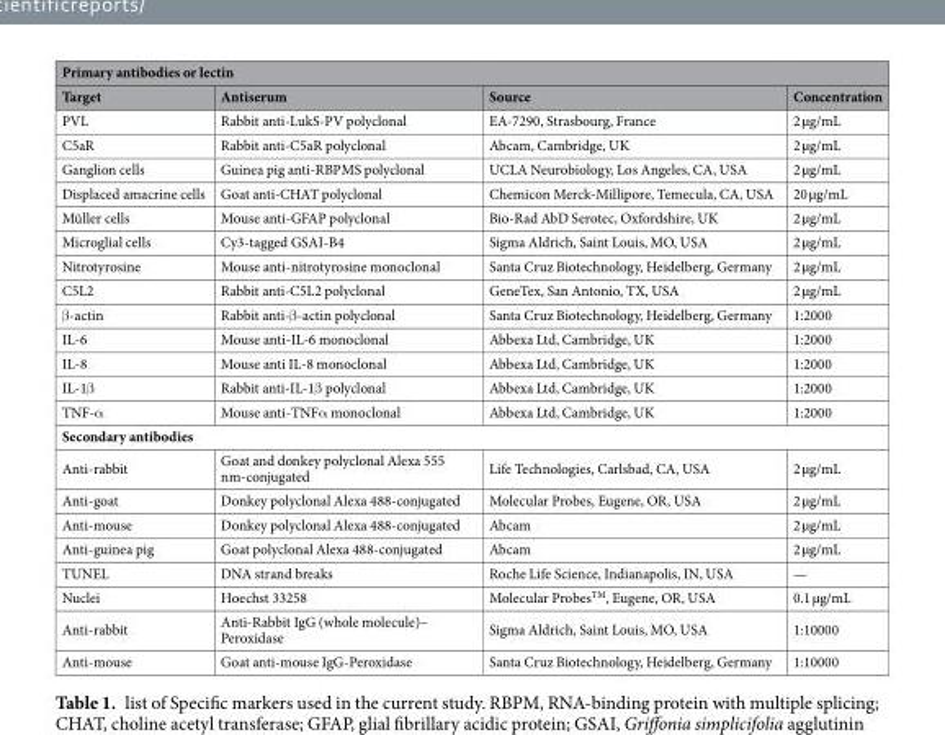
<table><thead><tr><td colspan="4">Primary antibodies or lectin</td></tr><tr><td>Target</td><td>Antiserum</td><td>Source</td><td>Concentration</td></tr></thead><tbody><tr><td>PVL</td><td>Rabbit anti-LukS-PV polyclonal</td><td>EA-7290, Strasbourg, France</td><td>2 µg/mL</td></tr><tr><td>C5aR</td><td>Rabbit anti-C5aR polyclonal</td><td>Abcam, Cambridge, UK</td><td>2 µg/mL</td></tr><tr><td>Ganglion cells</td><td>Guinea pig anti-RBPMS polyclonal</td><td>UCLA Neurobiology, Los Angeles, CA, USA</td><td>2 µg/mL</td></tr><tr><td>Displaced amacrine cells</td><td>Goat anti-CHAT polyclonal</td><td>Chemicon Merck-Millipore, Temecula, CA, USA</td><td>20 µg/mL</td></tr><tr><td>Müller cells</td><td>Mouse anti-GFAP polyclonal</td><td>Bio-Rad AbD Serotec, Oxfordshire, UK</td><td>2 µg/mL</td></tr><tr><td>Microglial cells</td><td>Cy3-tagged GSAI-B4</td><td>Sigma Aldrich, Saint Louis, MO, USA</td><td>2 µg/mL</td></tr><tr><td>Nitrotyrosine</td><td>Mouse anti-nitrotyrosine monoclonal</td><td>Santa Cruz Biotechnology, Heidelberg, Germany</td><td>2 µg/mL</td></tr><tr><td>C5L2</td><td>Rabbit anti-C5L2 polyclonal</td><td>GeneTex, San Antonio, TX, USA</td><td>2 µg/mL</td></tr><tr><td>β-actin</td><td>Rabbit anti-β-actin polyclonal</td><td>Santa Cruz Biotechnology, Heidelberg, Germany</td><td>1:2000</td></tr><tr><td>IL-6</td><td>Mouse anti-IL-6 monoclonal</td><td>Abbexa Ltd, Cambridge, UK</td><td>1:2000</td></tr><tr><td>IL-8</td><td>Mouse anti IL-8 monoclonal</td><td>Abbexa Ltd, Cambridge, UK</td><td>1:2000</td></tr><tr><td>IL-1β</td><td>Rabbit anti-IL-1β polyclonal</td><td>Abbexa Ltd, Cambridge, UK</td><td>1:2000</td></tr><tr><td>TNF-α</td><td>Mouse anti-TNFα monoclonal</td><td>Abbexa Ltd, Cambridge, UK</td><td>1:2000</td></tr><tr><td colspan="4">Secondary antibodies</td></tr><tr><td>Anti-rabbit</td><td>Goat and donkey polyclonal Alexa 555 nm-conjugated</td><td>Life Technologies, Carlsbad, CA, USA</td><td>2 µg/mL</td></tr><tr><td>Anti-goat</td><td>Donkey polyclonal Alexa 488-conjugated</td><td>Molecular Probes, Eugene, OR, USA</td><td>2 µg/mL</td></tr><tr><td>Anti-mouse</td><td>Donkey polyclonal Alexa 488-conjugated</td><td>Abcam</td><td>2 µg/mL</td></tr><tr><td>Anti-guinea pig</td><td>Goat polyclonal Alexa 488-conjugated</td><td>Abcam</td><td>2 µg/mL</td></tr><tr><td>TUNEL</td><td>DNA strand breaks</td><td>Roche Life Science, Indianapolis, IN, USA</td><td>—</td></tr><tr><td>Nuclei</td><td>Hoechst 33258</td><td>Molecular Probes<sup>TM</sup>, Eugene, OR, USA</td><td>0.1 µg/mL</td></tr><tr><td>Anti-rabbit</td><td>Anti-Rabbit IgG (whole molecule)– Peroxidase</td><td>Sigma Aldrich, Saint Louis, MO, USA</td><td>1:10000</td></tr><tr><td>Anti-mouse</td><td>Goat anti-mouse IgG-Peroxidase</td><td>Santa Cruz Biotechnology, Heidelberg, Germany</td><td>1:10000</td></tr></tbody></table>